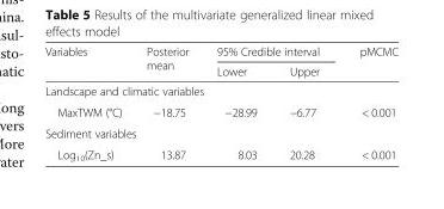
<table><thead><tr><td rowspan="2">Variables</td><td rowspan="2">Posterior mean</td><td colspan="2">95% Credible interval</td><td rowspan="2">pMCMC</td></tr><tr><td>Lower</td><td>Upper</td></tr></thead><tbody><tr><td colspan="5">Landscape and climatic variables</td></tr><tr><td>MaxTWM (°C)</td><td>−18.75</td><td>−28.99</td><td>−6.77</td><td>&lt; 0.001</td></tr><tr><td colspan="5">Sediment variables</td></tr><tr><td>Log<sub>10</sub>(Zn_s)</td><td>13.87</td><td>8.03</td><td>20.28</td><td>&lt; 0.001</td></tr></tbody></table>